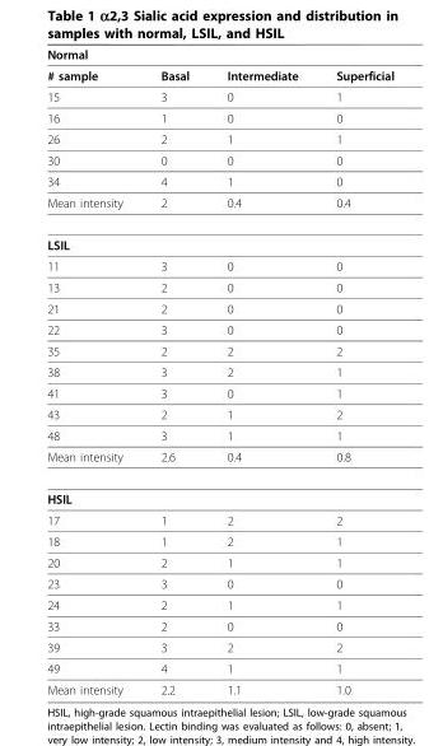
<table><thead><tr><td colspan="4">Normal</td></tr><tr><td># sample</td><td>Basal</td><td>Intermediate</td><td>Superficial</td></tr></thead><tbody><tr><td>15</td><td>3</td><td>0</td><td>1</td></tr><tr><td>16</td><td>1</td><td>0</td><td>0</td></tr><tr><td>26</td><td>2</td><td>1</td><td>1</td></tr><tr><td>30</td><td>0</td><td>0</td><td>0</td></tr><tr><td>34</td><td>4</td><td>1</td><td>0</td></tr><tr><td>Mean intensity</td><td>2</td><td>0.4</td><td>0.4</td></tr><tr><td colspan="4">LSIL</td></tr><tr><td>11</td><td>3</td><td>0</td><td>0</td></tr><tr><td>13</td><td>2</td><td>0</td><td>0</td></tr><tr><td>21</td><td>2</td><td>0</td><td>0</td></tr><tr><td>22</td><td>3</td><td>0</td><td>0</td></tr><tr><td>35</td><td>2</td><td>2</td><td>2</td></tr><tr><td>38</td><td>3</td><td>2</td><td>1</td></tr><tr><td>41</td><td>3</td><td>0</td><td>1</td></tr><tr><td>43</td><td>2</td><td>1</td><td>2</td></tr><tr><td>48</td><td>3</td><td>1</td><td>1</td></tr><tr><td>Mean intensity</td><td>2.6</td><td>0.4</td><td>0.8</td></tr><tr><td colspan="4">HSIL</td></tr><tr><td>17</td><td>1</td><td>2</td><td>2</td></tr><tr><td>18</td><td>1</td><td>2</td><td>1</td></tr><tr><td>20</td><td>2</td><td>1</td><td>1</td></tr><tr><td>23</td><td>3</td><td>0</td><td>0</td></tr><tr><td>24</td><td>2</td><td>1</td><td>1</td></tr><tr><td>33</td><td>2</td><td>0</td><td>0</td></tr><tr><td>39</td><td>3</td><td>2</td><td>2</td></tr><tr><td>49</td><td>4</td><td>1</td><td>1</td></tr><tr><td>Mean intensity</td><td>2.2</td><td>1.1</td><td>1.0</td></tr></tbody></table>